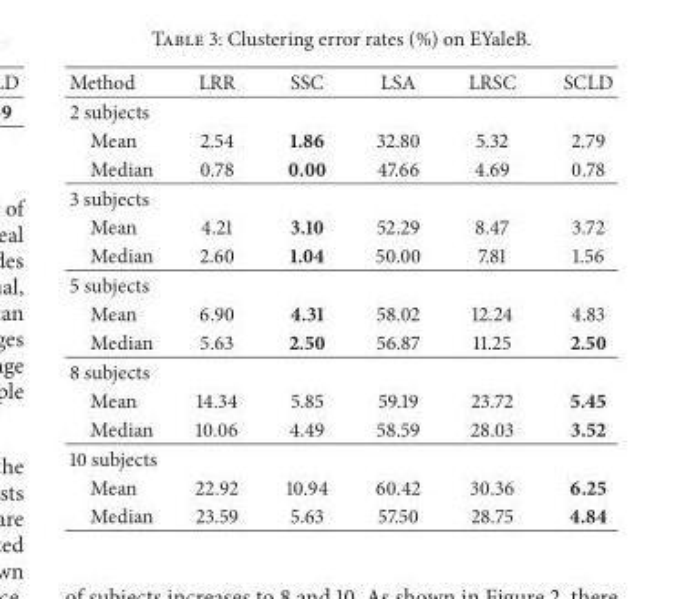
<table><thead><tr><td>Method</td><td>LRR</td><td>SSC</td><td>LSA</td><td>LRSC</td><td>SCLD</td></tr></thead><tbody><tr><td colspan="6">2 subjects</td></tr><tr><td>Mean</td><td>2.54</td><td>1.86</td><td>32.80</td><td>5.32</td><td>2.79</td></tr><tr><td>Median</td><td>0.78</td><td>0.00</td><td>47.66</td><td>4.69</td><td>0.78</td></tr><tr><td colspan="6">3 subjects</td></tr><tr><td>Mean</td><td>4.21</td><td>3.10</td><td>52.29</td><td>8.47</td><td>3.72</td></tr><tr><td>Median</td><td>2.60</td><td>1.04</td><td>50.00</td><td>7.81</td><td>1.56</td></tr><tr><td colspan="6">5 subjects</td></tr><tr><td>Mean</td><td>6.90</td><td>4.31</td><td>58.02</td><td>12.24</td><td>4.83</td></tr><tr><td>Median</td><td>5.63</td><td>2.50</td><td>56.87</td><td>11.25</td><td>2.50</td></tr><tr><td colspan="6">8 subjects</td></tr><tr><td>Mean</td><td>14.34</td><td>5.85</td><td>59.19</td><td>23.72</td><td>5.45</td></tr><tr><td>Median</td><td>10.06</td><td>4.49</td><td>58.59</td><td>28.03</td><td>3.52</td></tr><tr><td colspan="6">10 subjects</td></tr><tr><td>Mean</td><td>22.92</td><td>10.94</td><td>60.42</td><td>30.36</td><td>6.25</td></tr><tr><td>Median</td><td>23.59</td><td>5.63</td><td>57.50</td><td>28.75</td><td>4.84</td></tr></tbody></table>